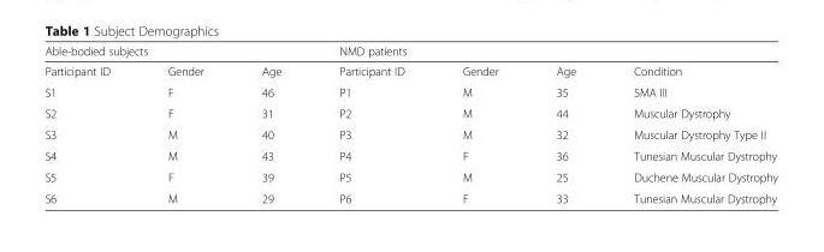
<table><thead><tr><td colspan="3">Able-bodied subjects</td><td colspan="4">NMD patients</td></tr><tr><td>Participant ID</td><td>Gender</td><td>Age</td><td>Participant ID</td><td>Gender</td><td>Age</td><td>Condition</td></tr></thead><tbody><tr><td>S1</td><td>F</td><td>46</td><td>P1</td><td>M</td><td>35</td><td>SMA III</td></tr><tr><td>S2</td><td>F</td><td>31</td><td>P2</td><td>M</td><td>44</td><td>Muscular Dystrophy</td></tr><tr><td>S3</td><td>M</td><td>40</td><td>P3</td><td>M</td><td>32</td><td>Muscular Dystrophy Type II</td></tr><tr><td>S4</td><td>M</td><td>43</td><td>P4</td><td>F</td><td>36</td><td>Tunesian Muscular Dystrophy</td></tr><tr><td>S5</td><td>F</td><td>39</td><td>P5</td><td>M</td><td>25</td><td>Duchene Muscular Dystrophy</td></tr><tr><td>S6</td><td>M</td><td>29</td><td>P6</td><td>F</td><td>33</td><td>Tunesian Muscular Dystrophy</td></tr></tbody></table>